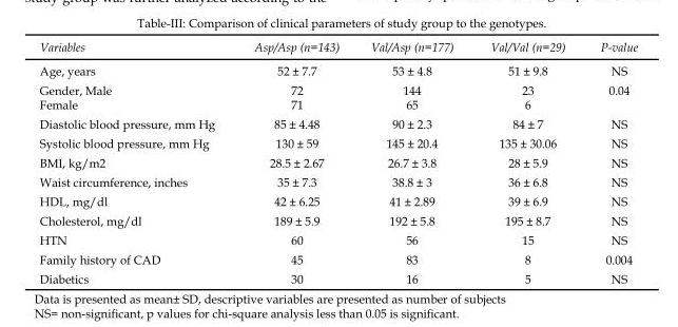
<table><thead><tr><td>Variables</td><td>Asp/Asp (n=143)</td><td>Val/Asp (n=177)</td><td>Val/Val (n=29)</td><td>P-value</td></tr></thead><tbody><tr><td>Age, years</td><td>52 ± 7.7</td><td>53 ± 4.8</td><td>51 ± 9.8</td><td>NS</td></tr><tr><td>Gender, Male Female</td><td>72 71</td><td>144 65</td><td>23 6</td><td>0.04</td></tr><tr><td>Diastolic blood pressure, mm Hg</td><td>85 ± 4.48</td><td>90 ± 2.3</td><td>84 ± 7</td><td>NS</td></tr><tr><td>Systolic blood pressure, mm Hg</td><td>130 ± 59</td><td>145 ± 20.4</td><td>135 ± 30.06</td><td>NS</td></tr><tr><td>BMI, kg/m2</td><td>28.5 ± 2.67</td><td>26.7 ± 3.8</td><td>28 ± 5.9</td><td>NS</td></tr><tr><td>Waist circumference, inches</td><td>35 ± 7.3</td><td>38.8 ± 3</td><td>36 ± 6.8</td><td>NS</td></tr><tr><td>HDL, mg/dl</td><td>42 ± 6.25</td><td>41 ± 2.89</td><td>39 ± 6.9</td><td>NS</td></tr><tr><td>Cholesterol, mg/dl</td><td>189 ± 5.9</td><td>192 ± 5.8</td><td>195 ± 8.7</td><td>NS</td></tr><tr><td>HTN</td><td>60</td><td>56</td><td>15</td><td>NS</td></tr><tr><td>Family history of CAD</td><td>45</td><td>83</td><td>8</td><td>0.004</td></tr><tr><td>Diabetics</td><td>30</td><td>16</td><td>5</td><td>NS</td></tr></tbody></table>